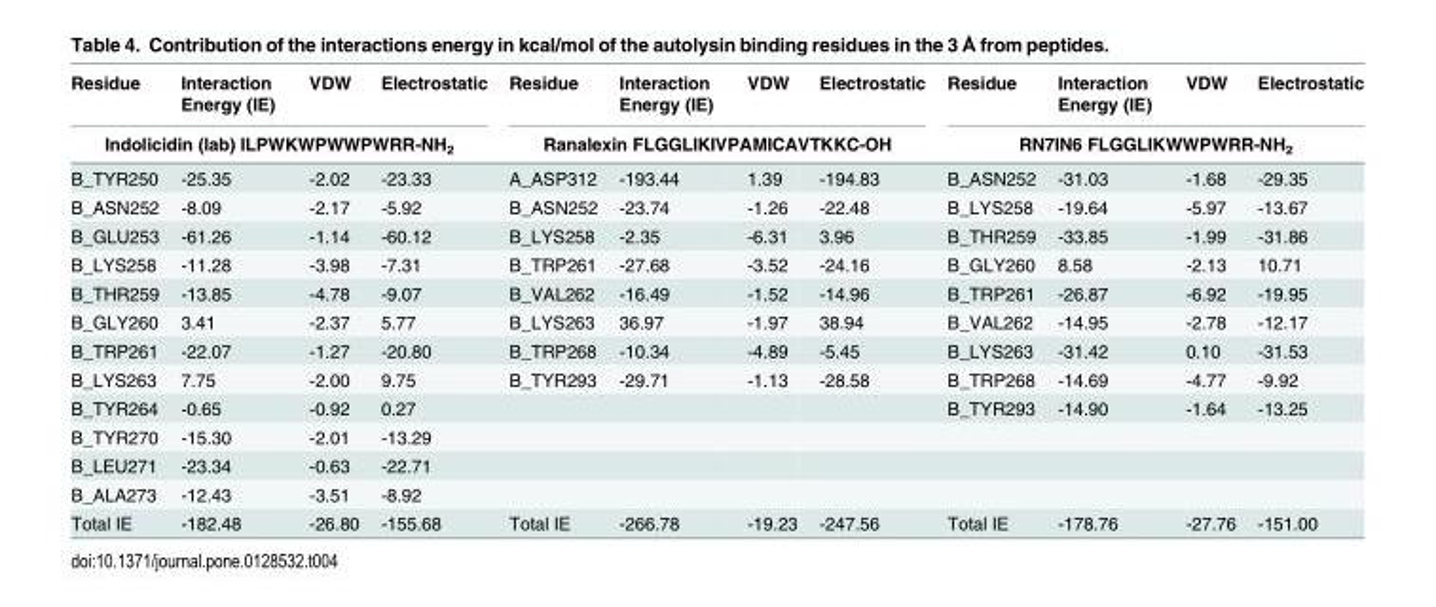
<table><thead><tr><td>Residue</td><td>Interaction Energy (IE)</td><td>VDW</td><td>Electrostatic</td><td>Residue</td><td>Interaction Energy (IE)</td><td>VDW</td><td>Electrostatic</td><td>Residue</td><td>Interaction Energy (IE)</td><td>VDW</td><td>Electrostatic</td></tr><tr><td colspan="4">Indolicidin (lab) ILPWKWPWWPWRR-NH<sub>2</sub></td><td colspan="4">Ranalexin FLGGLIKIVPAMICAVTKKC-OH</td><td colspan="4">RN7IN6 FLGGLIKWWPWRR-NH<sub>2</sub></td></tr></thead><tbody><tr><td>B_TYR250</td><td>-25.35</td><td>-2.02</td><td>-23.33</td><td>A_ASP312</td><td>-193.44</td><td>1.39</td><td>-194.83</td><td>B_ASN252</td><td>-31.03</td><td>-1.68</td><td>-29.35</td></tr><tr><td>B_ASN252</td><td>-8.09</td><td>-2.17</td><td>-5.92</td><td>B_ASN252</td><td>-23.74</td><td>-1.26</td><td>-22.48</td><td>B_LYS258</td><td>-19.64</td><td>-5.97</td><td>-13.67</td></tr><tr><td>B_GLU253</td><td>-61.26</td><td>-1.14</td><td>-60.12</td><td>B_LYS258</td><td>-2.35</td><td>-6.31</td><td>3.96</td><td>B_THR259</td><td>-33.85</td><td>-1.99</td><td>-31.86</td></tr><tr><td>B_LYS258</td><td>-11.28</td><td>-3.98</td><td>-7.31</td><td>B_TRP261</td><td>-27.68</td><td>-3.52</td><td>-24.16</td><td>B_GLY260</td><td>8.58</td><td>-2.13</td><td>10.71</td></tr><tr><td>B_THR259</td><td>-13.85</td><td>-4.78</td><td>-9.07</td><td>B_VAL262</td><td>-16.49</td><td>-1.52</td><td>-14.96</td><td>B_TRP261</td><td>-26.87</td><td>-6.92</td><td>-19.95</td></tr><tr><td>B_GLY260</td><td>3.41</td><td>-2.37</td><td>5.77</td><td>B_LYS263</td><td>36.97</td><td>-1.97</td><td>38.94</td><td>B_VAL262</td><td>-14.95</td><td>-2.78</td><td>-12.17</td></tr><tr><td>B_TRP261</td><td>-22.07</td><td>-1.27</td><td>-20.80</td><td>B_TRP268</td><td>-10.34</td><td>-4.89</td><td>-5.45</td><td>B_LYS263</td><td>-31.42</td><td>0.10</td><td>-31.53</td></tr><tr><td>B_LYS263</td><td>7.75</td><td>-2.00</td><td>9.75</td><td>B_TYR293</td><td>-29.71</td><td>-1.13</td><td>-28.58</td><td>B_TRP268</td><td>-14.69</td><td>-4.77</td><td>-9.92</td></tr><tr><td>B_TYR264</td><td>-0.65</td><td>-0.92</td><td>0.27</td><td></td><td></td><td></td><td></td><td>B_TYR293</td><td>-14.90</td><td>-1.64</td><td>-13.25</td></tr><tr><td>B_TYR270</td><td>-15.30</td><td>-2.01</td><td>-13.29</td><td></td><td></td><td></td><td></td><td></td><td></td><td></td><td></td></tr><tr><td>B_LEU271</td><td>-23.34</td><td>-0.63</td><td>-22.71</td><td></td><td></td><td></td><td></td><td></td><td></td><td></td><td></td></tr><tr><td>B_ALA273</td><td>-12.43</td><td>-3.51</td><td>-8.92</td><td></td><td></td><td></td><td></td><td></td><td></td><td></td><td></td></tr><tr><td>Total IE</td><td>-182.48</td><td>-26.80</td><td>-155.68</td><td>Total IE</td><td>-266.78</td><td>-19.23</td><td>-247.56</td><td>Total IE</td><td>-178.76</td><td>-27.76</td><td>-151.00</td></tr></tbody></table>